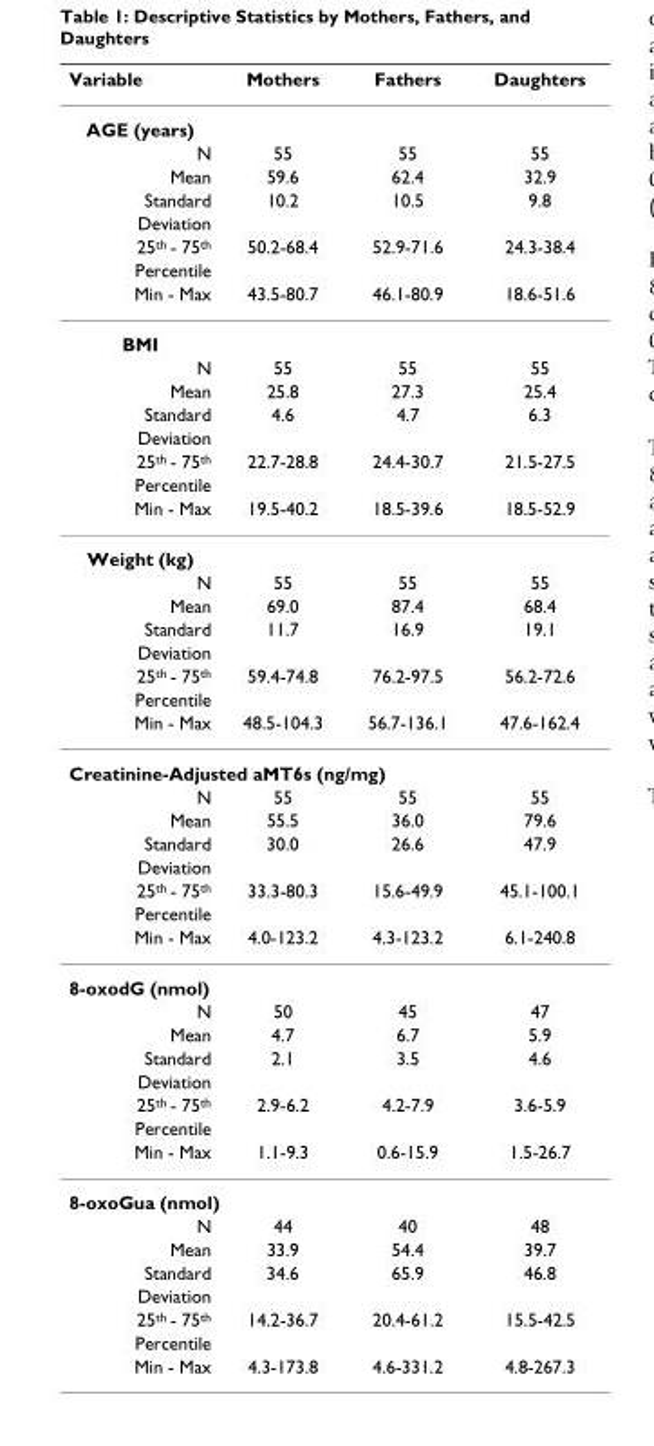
<table><thead><tr><td>Variable</td><td>Mothers</td><td>Fathers</td><td>Daughters</td></tr></thead><tbody><tr><td colspan="4">AGE (years)</td></tr><tr><td>N</td><td>55</td><td>55</td><td>55</td></tr><tr><td>Mean</td><td>59.6</td><td>62.4</td><td>32.9</td></tr><tr><td>Standard</td><td>10.2</td><td>10.5</td><td>9.8</td></tr><tr><td colspan="4">Deviation</td></tr><tr><td>25<sup>th</sup> - 75<sup>th</sup></td><td>50.2-68.4</td><td>52.9-71.6</td><td>24.3-38.4</td></tr><tr><td colspan="4">Percentile</td></tr><tr><td>Min - Max</td><td>43.5-80.7</td><td>46.1-80.9</td><td>18.6-51.6</td></tr><tr><td colspan="4">BMI</td></tr><tr><td>N</td><td>55</td><td>55</td><td>55</td></tr><tr><td>Mean</td><td>25.8</td><td>27.3</td><td>25.4</td></tr><tr><td>Standard</td><td>4.6</td><td>4.7</td><td>6.3</td></tr><tr><td colspan="4">Deviation</td></tr><tr><td>25<sup>th</sup> - 75<sup>th</sup></td><td>22.7-28.8</td><td>24.4-30.7</td><td>21.5-27.5</td></tr><tr><td colspan="4">Percentile</td></tr><tr><td>Min - Max</td><td>19.5-40.2</td><td>18.5-39.6</td><td>18.5-52.9</td></tr><tr><td colspan="4">Weight (kg)</td></tr><tr><td>N</td><td>55</td><td>55</td><td>55</td></tr><tr><td>Mean</td><td>69.0</td><td>87.4</td><td>68.4</td></tr><tr><td>Standard</td><td>11.7</td><td>16.9</td><td>19.1</td></tr><tr><td colspan="4">Deviation</td></tr><tr><td>25<sup>th</sup> - 75<sup>th</sup></td><td>59.4-74.8</td><td>76.2-97.5</td><td>56.2-72.6</td></tr><tr><td colspan="4">Percentile</td></tr><tr><td>Min - Max</td><td>48.5-104.3</td><td>56.7-136.1</td><td>47.6-162.4</td></tr><tr><td colspan="4">Creatinine-Adjusted aMT6s (ng/mg)</td></tr><tr><td>N</td><td>55</td><td>55</td><td>55</td></tr><tr><td>Mean</td><td>55.5</td><td>36.0</td><td>79.6</td></tr><tr><td>Standard</td><td>30.0</td><td>26.6</td><td>47.9</td></tr><tr><td colspan="4">Deviation</td></tr><tr><td>25<sup>th</sup> - 75<sup>th</sup></td><td>33.3-80.3</td><td>15.6-49.9</td><td>45.1-100.1</td></tr><tr><td colspan="4">Percentile</td></tr><tr><td>Min - Max</td><td>4.0-123.2</td><td>4.3-123.2</td><td>6.1-240.8</td></tr><tr><td colspan="4">8-oxodG (nmol)</td></tr><tr><td>N</td><td>50</td><td>45</td><td>47</td></tr><tr><td>Mean</td><td>4.7</td><td>6.7</td><td>5.9</td></tr><tr><td>Standard</td><td>2.1</td><td>3.5</td><td>4.6</td></tr><tr><td colspan="4">Deviation</td></tr><tr><td>25<sup>th</sup> - 75<sup>th</sup></td><td>2.9-6.2</td><td>4.2-7.9</td><td>3.6-5.9</td></tr><tr><td colspan="4">Percentile</td></tr><tr><td>Min - Max</td><td>1.1-9.3</td><td>0.6-15.9</td><td>1.5-26.7</td></tr><tr><td colspan="4">8-oxoGua (nmol)</td></tr><tr><td>N</td><td>44</td><td>40</td><td>48</td></tr><tr><td>Mean</td><td>33.9</td><td>54.4</td><td>39.7</td></tr><tr><td>Standard</td><td>34.6</td><td>65.9</td><td>46.8</td></tr><tr><td colspan="4">Deviation</td></tr><tr><td>25<sup>th</sup> - 75<sup>th</sup></td><td>14.2-36.7</td><td>20.4-61.2</td><td>15.5-42.5</td></tr><tr><td colspan="4">Percentile</td></tr><tr><td>Min - Max</td><td>4.3-173.8</td><td>4.6-331.2</td><td>4.8-267.3</td></tr></tbody></table>